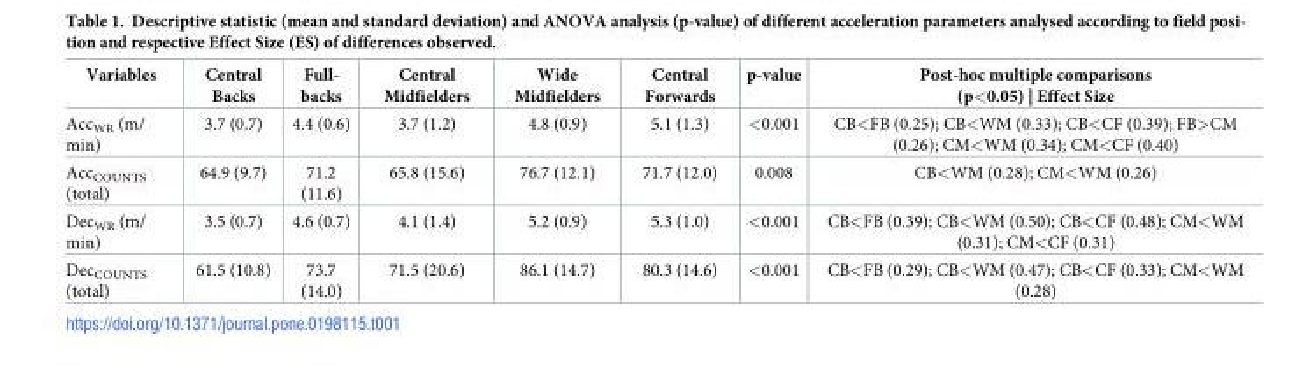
<table><thead><tr><td>Variables</td><td>Central Backs</td><td>Full- backs</td><td>Central Midfielders</td><td>Wide Midfielders</td><td>Central Forwards</td><td>p-value</td><td>Post-hoc multiple comparisons (p&lt;0.05) | Effect Size</td></tr></thead><tbody><tr><td>Acc<sub>WR</sub> (m/ min)</td><td>3.7 (0.7)</td><td>4.4 (0.6)</td><td>3.7 (1.2)</td><td>4.8 (0.9)</td><td>5.1 (1.3)</td><td>&lt;0.001</td><td>CB&lt;FB (0.25); CB&lt;WM (0.33); CB&lt;CF (0.39); FB&gt;CM (0.26); CM&lt;WM (0.34); CM&lt;CF (0.40)</td></tr><tr><td>Acc<sub>COUNTS</sub> (total)</td><td>64.9 (9.7)</td><td>71.2 (11.6)</td><td>65.8 (15.6)</td><td>76.7 (12.1)</td><td>71.7 (12.0)</td><td>0.008</td><td>CB&lt;WM (0.28); CM&lt;WM (0.26)</td></tr><tr><td>Dec<sub>WR</sub> (m/ min)</td><td>3.5 (0.7)</td><td>4.6 (0.7)</td><td>4.1 (1.4)</td><td>5.2 (0.9)</td><td>5.3 (1.0)</td><td>&lt;0.001</td><td>CB&lt;FB (0.39); CB&lt;WM (0.50); CB&lt;CF (0.48); CM&lt;WM (0.31); CM&lt;CF (0.31)</td></tr><tr><td>Dec<sub>COUNTS</sub> (total)</td><td>61.5 (10.8)</td><td>73.7 (14.0)</td><td>71.5 (20.6)</td><td>86.1 (14.7)</td><td>80.3 (14.6)</td><td>&lt;0.001</td><td>CB&lt;FB (0.29); CB&lt;WM (0.47); CB&lt;CF (0.33); CM&lt;WM (0.28)</td></tr></tbody></table>